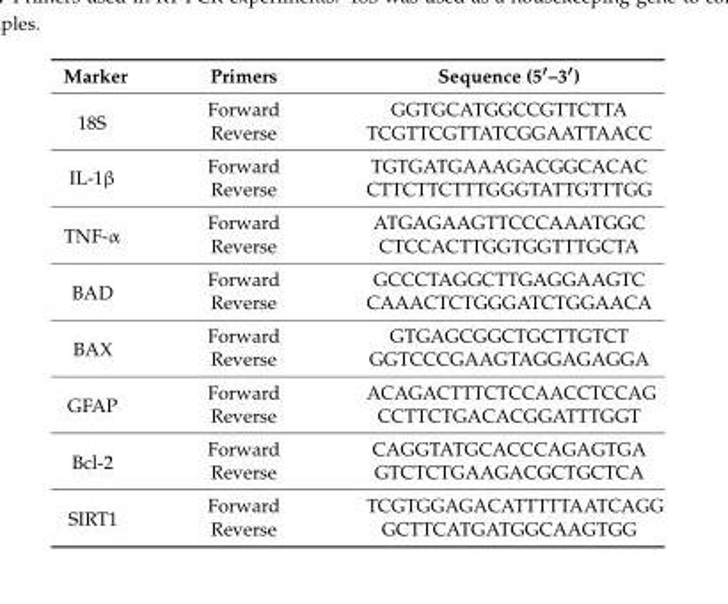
<table><thead><tr><td>Marker</td><td>Primers</td><td>Sequence (5′–3′)</td></tr></thead><tbody><tr><td rowspan="2">18S</td><td>Forward</td><td>GGTGCATGGCCGTTCTTA</td></tr><tr><td>Reverse</td><td>TCGTTCGTTATCGGAATTAACC</td></tr><tr><td rowspan="2">IL-1β</td><td>Forward</td><td>TGTGATGAAAGACGGCACAC</td></tr><tr><td>Reverse</td><td>CTTCTTCTTTGGGTATTGTTTGG</td></tr><tr><td rowspan="2">TNF-α</td><td>Forward</td><td>ATGAGAAGTTCCCAAATGGC</td></tr><tr><td>Reverse</td><td>CTCCACTTGGTGGTTTGCTA</td></tr><tr><td rowspan="2">BAD</td><td>Forward</td><td>GCCCTAGGCTTGAGGAAGTC</td></tr><tr><td>Reverse</td><td>CAAACTCTGGGATCTGGAACA</td></tr><tr><td rowspan="2">BAX</td><td>Forward</td><td>GTGAGCGGCTGCTTGTCT</td></tr><tr><td>Reverse</td><td>GGTCCCGAAGTAGGAGAGGA</td></tr><tr><td rowspan="2">GFAP</td><td>Forward</td><td>ACAGACTTTCTCCAACCTCCAG</td></tr><tr><td>Reverse</td><td>CCTTCTGACACGGATTTGGT</td></tr><tr><td rowspan="2">Bcl-2</td><td>Forward</td><td>CAGGTATGCACCCAGAGTGA</td></tr><tr><td>Reverse</td><td>GTCTCTGAAGACGCTGCTCA</td></tr><tr><td rowspan="2">SIRT1</td><td>Forward</td><td>TCGTGGAGACATTTTTAATCAGG</td></tr><tr><td>Reverse</td><td>GCTTCATGATGGCAAGTGG</td></tr></tbody></table>